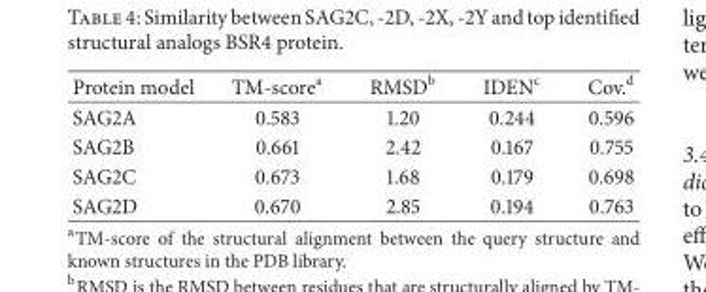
<table><thead><tr><td>Protein model</td><td>TM-score<sup>a</sup></td><td>RMSD<sup>b</sup></td><td>IDEN<sup>c</sup></td><td>Cov.<sup>d</sup></td></tr></thead><tbody><tr><td>SAG2A</td><td>0.583</td><td>1.20</td><td>0.244</td><td>0.596</td></tr><tr><td>SAG2B</td><td>0.661</td><td>2.42</td><td>0.167</td><td>0.755</td></tr><tr><td>SAG2C</td><td>0.673</td><td>1.68</td><td>0.179</td><td>0.698</td></tr><tr><td>SAG2D</td><td>0.670</td><td>2.85</td><td>0.194</td><td>0.763</td></tr></tbody></table>